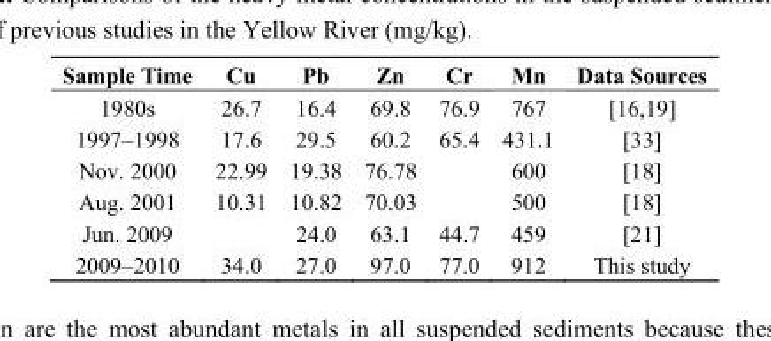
<table><thead><tr><td>Sample Time</td><td>Cu</td><td>Pb</td><td>Zn</td><td>Cr</td><td>Mn</td><td>Data Sources</td></tr></thead><tbody><tr><td>1980s</td><td>26.7</td><td>16.4</td><td>69.8</td><td>76.9</td><td>767</td><td>[16,19]</td></tr><tr><td>1997–1998</td><td>17.6</td><td>29.5</td><td>60.2</td><td>65.4</td><td>431.1</td><td>[33]</td></tr><tr><td>Nov. 2000</td><td>22.99</td><td>19.38</td><td>76.78</td><td></td><td>600</td><td>[18]</td></tr><tr><td>Aug. 2001</td><td>10.31</td><td>10.82</td><td>70.03</td><td></td><td>500</td><td>[18]</td></tr><tr><td>Jun. 2009</td><td></td><td>24.0</td><td>63.1</td><td>44.7</td><td>459</td><td>[21]</td></tr><tr><td>2009–2010</td><td>34.0</td><td>27.0</td><td>97.0</td><td>77.0</td><td>912</td><td>This study</td></tr></tbody></table>